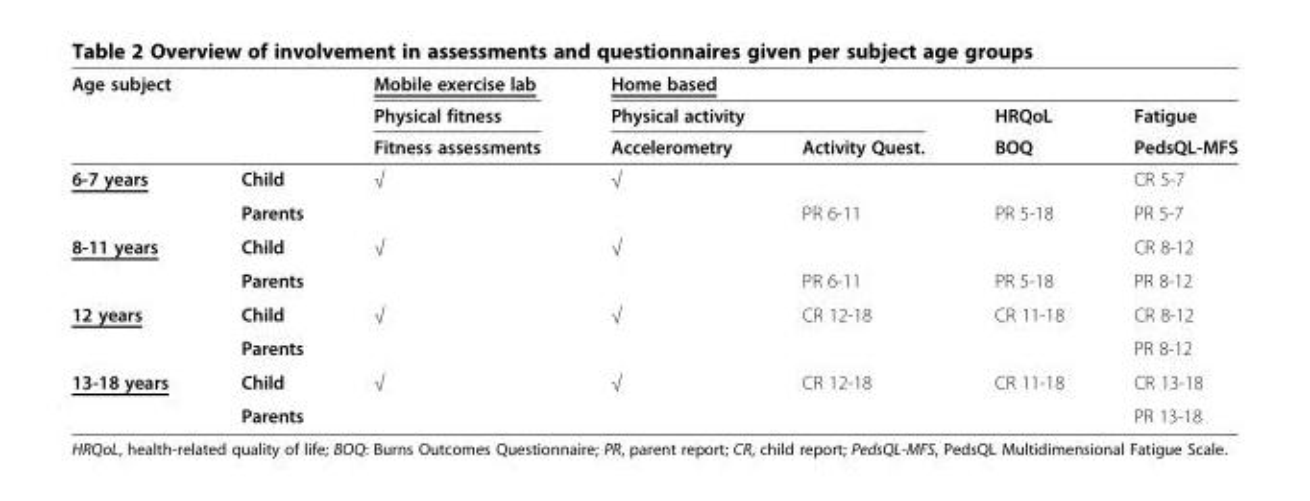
<table><thead><tr><td rowspan="3">Age subject</td><td rowspan="3"></td><td rowspan="3">Mobile exercise lab Physical fitness Fitness assessments</td><td colspan="4">Home based</td></tr><tr><td colspan="2">Physical activity</td><td rowspan="2">HRQoL BOQ</td><td rowspan="2">Fatigue PedsQL-MFS</td></tr><tr><td>Accelerometry</td><td>Activity Quest.</td></tr></thead><tbody><tr><td rowspan="2">6-7 years</td><td>Child</td><td>√</td><td>√</td><td></td><td></td><td>CR 5-7</td></tr><tr><td>Parents</td><td></td><td></td><td>PR 6-11</td><td>PR 5-18</td><td>PR 5-7</td></tr><tr><td rowspan="2">8-11 years</td><td>Child</td><td>√</td><td>√</td><td></td><td></td><td>CR 8-12</td></tr><tr><td>Parents</td><td></td><td></td><td>PR 6-11</td><td>PR 5-18</td><td>PR 8-12</td></tr><tr><td rowspan="2">12 years</td><td>Child</td><td>√</td><td>√</td><td>CR 12-18</td><td>CR 11-18</td><td>CR 8-12</td></tr><tr><td>Parents</td><td></td><td></td><td></td><td></td><td>PR 8-12</td></tr><tr><td rowspan="2">13-18 years</td><td>Child</td><td>√</td><td>√</td><td>CR 12-18</td><td>CR 11-18</td><td>CR 13-18</td></tr><tr><td>Parents</td><td></td><td></td><td></td><td></td><td>PR 13-18</td></tr></tbody></table>